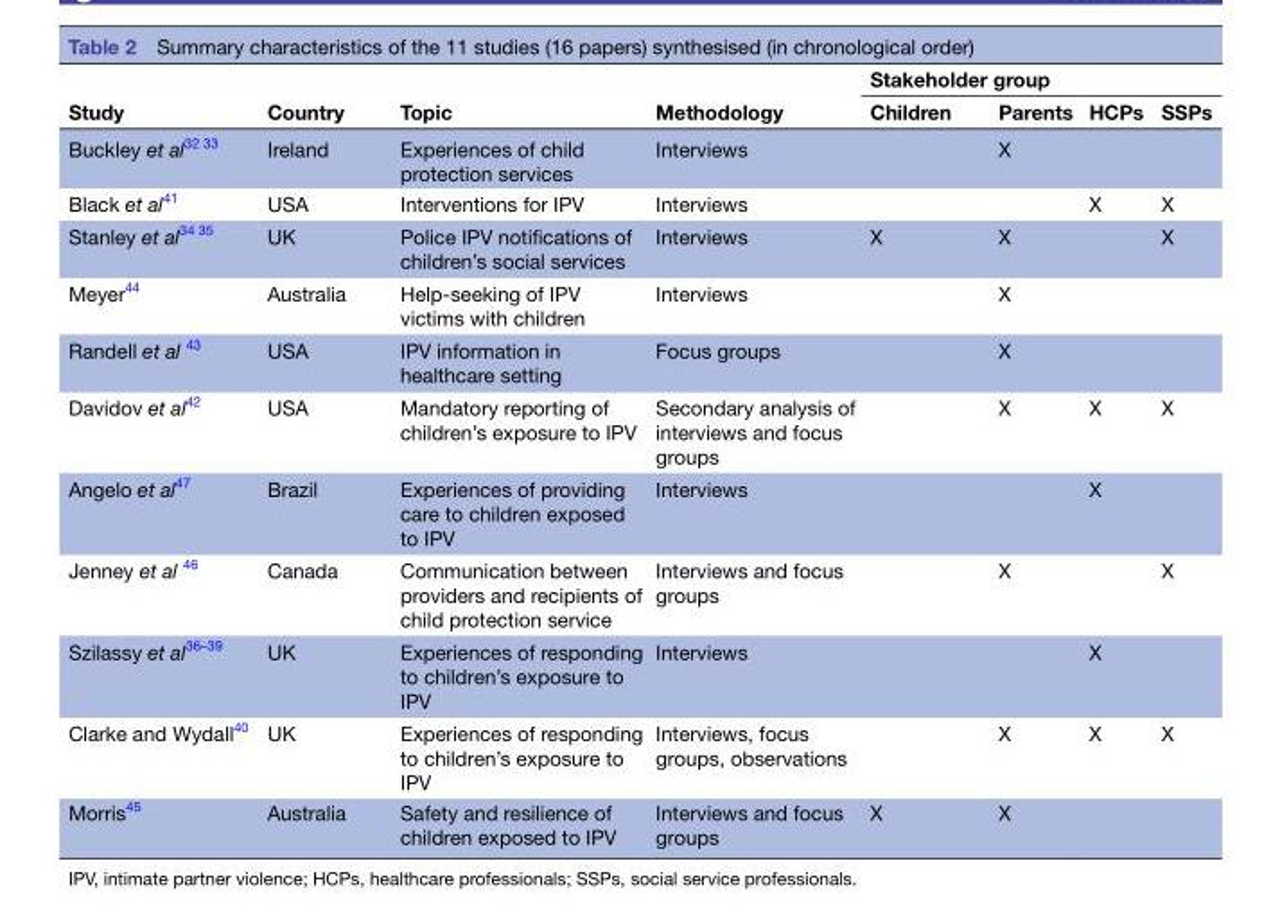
<table><thead><tr><td rowspan="2">Study</td><td rowspan="2">Country</td><td rowspan="2">Topic</td><td rowspan="2">Methodology</td><td colspan="4">Stakeholder group</td></tr><tr><td>Children</td><td>Parents</td><td>HCPs</td><td>SSPs</td></tr></thead><tbody><tr><td>Buckley et al<sup>32 33</sup></td><td>Ireland</td><td>Experiences of child protection services</td><td>Interviews</td><td></td><td>X</td><td></td><td></td></tr><tr><td>Black et al<sup>41</sup></td><td>USA</td><td>Interventions for IPV</td><td>Interviews</td><td></td><td></td><td>X</td><td>X</td></tr><tr><td>Stanley et al<sup>34 35</sup></td><td>UK</td><td>Police IPV notifications of children’s social services</td><td>Interviews</td><td>X</td><td>X</td><td></td><td>X</td></tr><tr><td>Meyer<sup>44</sup></td><td>Australia</td><td>Help-seeking of IPV victims with children</td><td>Interviews</td><td></td><td>X</td><td></td><td></td></tr><tr><td>Randell et al 43</td><td>USA</td><td>IPV information in healthcare setting</td><td>Focus groups</td><td></td><td>X</td><td></td><td></td></tr><tr><td>Davidov et al<sup>42</sup></td><td>USA</td><td>Mandatory reporting of children’s exposure to IPV</td><td>Secondary analysis of interviews and focus groups</td><td></td><td>X</td><td>X</td><td>X</td></tr><tr><td>Angelo et al<sup>47</sup></td><td>Brazil</td><td>Experiences of providing care to children exposed to IPV</td><td>Interviews</td><td></td><td></td><td>X</td><td></td></tr><tr><td>Jenney et al 46</td><td>Canada</td><td>Communication between providers and recipients of child protection service</td><td>Interviews and focus groups</td><td></td><td>X</td><td></td><td>X</td></tr><tr><td>Szilassy et al<sup>36–39</sup></td><td>UK</td><td>Experiences of responding to children’s exposure to IPV</td><td>Interviews</td><td></td><td></td><td>X</td><td></td></tr><tr><td>Clarke and Wydall<sup>40</sup></td><td>UK</td><td>Experiences of responding to children’s exposure to IPV</td><td>Interviews, focus groups, observations</td><td></td><td>X</td><td>X</td><td>X</td></tr><tr><td>Morris<sup>45</sup></td><td>Australia</td><td>Safety and resilience of children exposed to IPV</td><td>Interviews and focus groups</td><td>X</td><td>X</td><td></td><td></td></tr></tbody></table>